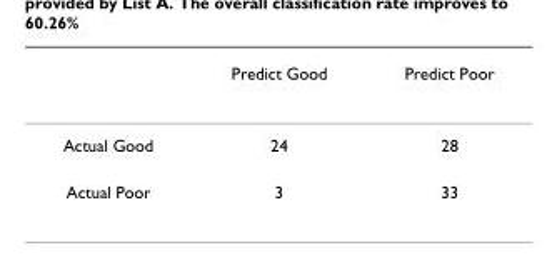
<table><thead><tr><td></td><td>Predict Good</td><td>Predict Poor</td></tr></thead><tbody><tr><td>Actual Good</td><td>24</td><td>28</td></tr><tr><td>Actual Poor</td><td>3</td><td>33</td></tr></tbody></table>